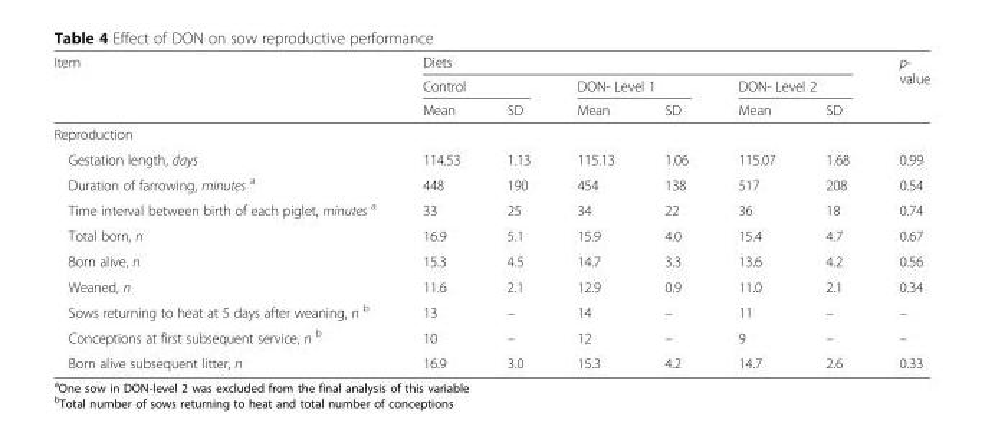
<table><thead><tr><td rowspan="3">Item</td><td colspan="6">Diets</td><td rowspan="3">p- value</td></tr><tr><td colspan="2">Control</td><td colspan="2">DON- Level 1</td><td colspan="2">DON- Level 2</td></tr><tr><td>Mean</td><td>SD</td><td>Mean</td><td>SD</td><td>Mean</td><td>SD</td></tr></thead><tbody><tr><td colspan="8">Reproduction</td></tr><tr><td>Gestation length, days</td><td>114.53</td><td>1.13</td><td>115.13</td><td>1.06</td><td>115.07</td><td>1.68</td><td>0.99</td></tr><tr><td>Duration of farrowing, minutes <sup>a</sup></td><td>448</td><td>190</td><td>454</td><td>138</td><td>517</td><td>208</td><td>0.54</td></tr><tr><td>Time interval between birth of each piglet, minutes <sup>a</sup></td><td>33</td><td>25</td><td>34</td><td>22</td><td>36</td><td>18</td><td>0.74</td></tr><tr><td>Total born, n</td><td>16.9</td><td>5.1</td><td>15.9</td><td>4.0</td><td>15.4</td><td>4.7</td><td>0.67</td></tr><tr><td>Born alive, n</td><td>15.3</td><td>4.5</td><td>14.7</td><td>3.3</td><td>13.6</td><td>4.2</td><td>0.56</td></tr><tr><td>Weaned, n</td><td>11.6</td><td>2.1</td><td>12.9</td><td>0.9</td><td>11.0</td><td>2.1</td><td>0.34</td></tr><tr><td>Sows returning to heat at 5 days after weaning, n <sup>b</sup></td><td>13</td><td>–</td><td>14</td><td>–</td><td>11</td><td>–</td><td>–</td></tr><tr><td>Conceptions at first subsequent service, n <sup>b</sup></td><td>10</td><td>–</td><td>12</td><td>–</td><td>9</td><td>–</td><td>–</td></tr><tr><td>Born alive subsequent litter, n</td><td>16.9</td><td>3.0</td><td>15.3</td><td>4.2</td><td>14.7</td><td>2.6</td><td>0.33</td></tr></tbody></table>